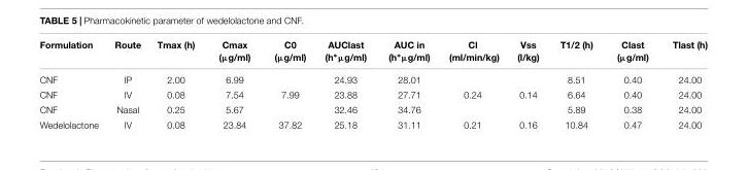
<table><thead><tr><td>Formulation</td><td>Route</td><td>Tmax (h)</td><td>Cmax (µg/ml)</td><td>C0 (µg/ml)</td><td>AUClast (h∗µg/ml)</td><td>AUC in (h∗µg/ml)</td><td>Cl (ml/min/kg)</td><td>Vss (l/kg)</td><td>T1/2 (h)</td><td>Clast (µg/ml)</td><td>Tlast (h)</td></tr></thead><tbody><tr><td>CNF</td><td>IP</td><td>2.00</td><td>6.99</td><td></td><td>24.93</td><td>28.01</td><td></td><td></td><td>8.51</td><td>0.40</td><td>24.00</td></tr><tr><td>CNF</td><td>IV</td><td>0.08</td><td>7.54</td><td>7.99</td><td>23.88</td><td>27.71</td><td>0.24</td><td>0.14</td><td>6.64</td><td>0.40</td><td>24.00</td></tr><tr><td>CNF</td><td>Nasal</td><td>0.25</td><td>5.67</td><td></td><td>32.46</td><td>34.76</td><td></td><td></td><td>5.89</td><td>0.38</td><td>24.00</td></tr><tr><td>Wedelolactone</td><td>IV</td><td>0.08</td><td>23.84</td><td>37.82</td><td>25.18</td><td>31.11</td><td>0.21</td><td>0.16</td><td>10.84</td><td>0.47</td><td>24.00</td></tr></tbody></table>